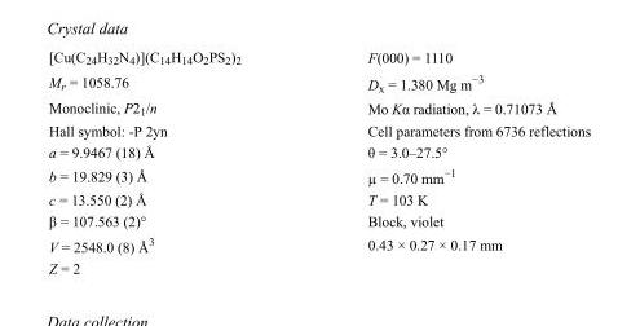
<table><tbody><tr><td>[Cu(C<sub>24</sub>H<sub>32</sub>N<sub>4</sub>)](C<sub>14</sub>H<sub>14</sub>O<sub>2</sub>PS<sub>2</sub>)<sub>2</sub></td><td>F(000) = 1110</td></tr><tr><td>M<sub>r</sub> = 1058.76</td><td>D<sub>x</sub> = 1.380 Mg m<sup>−3</sup></td></tr><tr><td>Monoclinic, P2<sub>1</sub>/n</td><td>Mo Kα radiation, λ = 0.71073 Å</td></tr><tr><td>Hall symbol: -P 2yn</td><td>Cell parameters from 6736 reflections</td></tr><tr><td>a = 9.9467 (18) Å</td><td>θ = 3.0–27.5°</td></tr><tr><td>b = 19.829 (3) Å</td><td>µ = 0.70 mm<sup>−1</sup></td></tr><tr><td>c = 13.550 (2) Å</td><td>T = 103 K</td></tr><tr><td>β = 107.563 (2)°</td><td>Block, violet</td></tr><tr><td>V = 2548.0 (8) Å<sup>3</sup></td><td>0.43 × 0.27 × 0.17 mm</td></tr><tr><td>Z = 2</td><td></td></tr></tbody></table>